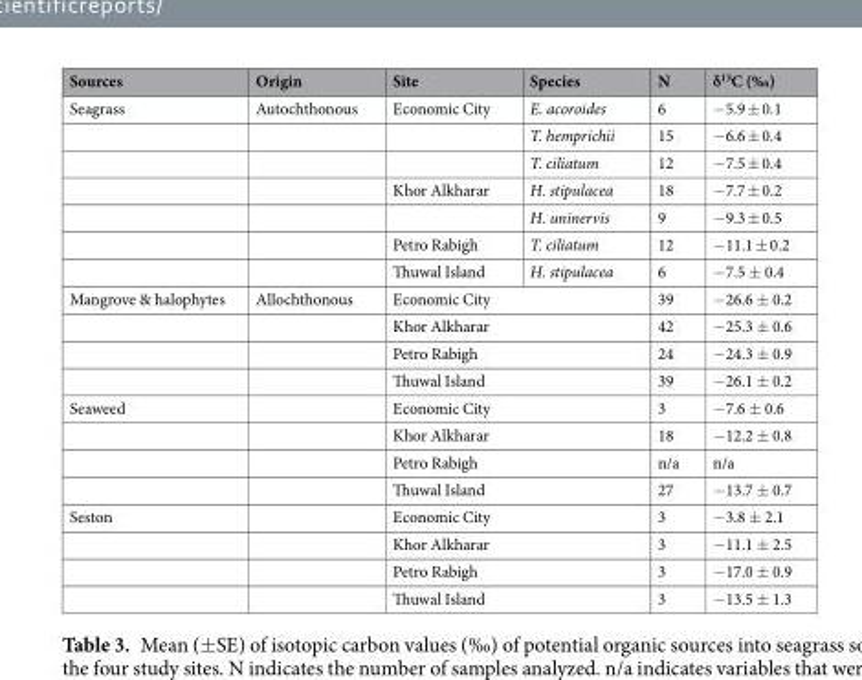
<table><thead><tr><td>Sources</td><td>Origin</td><td>Site</td><td>Species</td><td>N</td><td>δ<sup>13</sup>C (‰)</td></tr></thead><tbody><tr><td rowspan="7">Seagrass</td><td>Autochthonous</td><td>Economic City</td><td>E. acoroides</td><td>6</td><td>−5.9 ± 0.1</td></tr><tr><td></td><td></td><td>T. hemprichii</td><td>15</td><td>−6.6 ± 0.4</td></tr><tr><td></td><td></td><td>T. ciliatum</td><td>12</td><td>−7.5 ± 0.4</td></tr><tr><td></td><td>Khor Alkharar</td><td>H. stipulacea</td><td>18</td><td>−7.7 ± 0.2</td></tr><tr><td></td><td></td><td>H. uninervis</td><td>9</td><td>−9.3 ± 0.5</td></tr><tr><td></td><td>Petro Rabigh</td><td>T. ciliatum</td><td>12</td><td>−11.1 ± 0.2</td></tr><tr><td></td><td>Thuwal Island</td><td>H. stipulacea</td><td>6</td><td>−7.5 ± 0.4</td></tr><tr><td rowspan="4">Mangrove &amp; halophytes</td><td>Allochthonous</td><td colspan="2">Economic City</td><td>39</td><td>−26.6 ± 0.2</td></tr><tr><td></td><td colspan="2">Khor Alkharar</td><td>42</td><td>−25.3 ± 0.6</td></tr><tr><td></td><td colspan="2">Petro Rabigh</td><td>24</td><td>−24.3 ± 0.9</td></tr><tr><td></td><td colspan="2">Thuwal Island</td><td>39</td><td>−26.1 ± 0.2</td></tr><tr><td rowspan="4">Seaweed</td><td></td><td colspan="2">Economic City</td><td>3</td><td>−7.6 ± 0.6</td></tr><tr><td></td><td colspan="2">Khor Alkharar</td><td>18</td><td>−12.2 ± 0.8</td></tr><tr><td></td><td colspan="2">Petro Rabigh</td><td>n/a</td><td>n/a</td></tr><tr><td></td><td colspan="2">Thuwal Island</td><td>27</td><td>−13.7 ± 0.7</td></tr><tr><td rowspan="4">Seston</td><td></td><td colspan="2">Economic City</td><td>3</td><td>−3.8 ± 2.1</td></tr><tr><td></td><td colspan="2">Khor Alkharar</td><td>3</td><td>−11.1 ± 2.5</td></tr><tr><td></td><td colspan="2">Petro Rabigh</td><td>3</td><td>−17.0 ± 0.9</td></tr><tr><td></td><td colspan="2">Thuwal Island</td><td>3</td><td>−13.5 ± 1.3</td></tr></tbody></table>